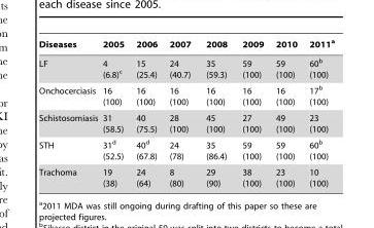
<table><thead><tr><td>Diseases</td><td>2005</td><td>2006</td><td>2007</td><td>2008</td><td>2009</td><td>2010</td><td>2011<sup>a</sup></td></tr></thead><tbody><tr><td>LF</td><td>4 (6.8)<sup>c</sup></td><td>15 (25.4)</td><td>24 (40.7)</td><td>35 (59.3)</td><td>59 (100)</td><td>59 (100)</td><td>60<sup>b</sup> (100)</td></tr><tr><td>Onchocerciasis</td><td>16 (100)</td><td>16 (100)</td><td>16 (100)</td><td>16 (100)</td><td>16 (100)</td><td>16 (100)</td><td>17<sup>b</sup> (100)</td></tr><tr><td>Schistosomiasis</td><td>31 (58.5)</td><td>40 (75.5)</td><td>28 (100)</td><td>45 (100)</td><td>27 (100)</td><td>49 (100)</td><td>23 (100)</td></tr><tr><td>STH</td><td>31<sup>d</sup> (52.5)</td><td>40<sup>d</sup> (67.8)</td><td>24 (78)</td><td>35 (86.4)</td><td>59 (100)</td><td>59 (100)</td><td>60<sup>b</sup> (100)</td></tr><tr><td>Trachoma</td><td>19 (38)</td><td>24 (64)</td><td>8 (80)</td><td>29 (90)</td><td>38 (100)</td><td>23 (100)</td><td>10 (100)</td></tr></tbody></table>